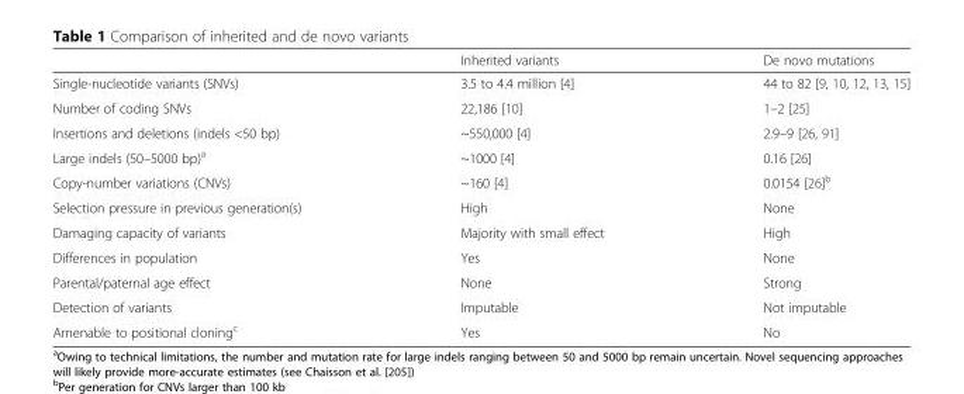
<table><thead><tr><td></td><td>Inherited variants</td><td>De novo mutations</td></tr></thead><tbody><tr><td>Single-nucleotide variants (SNVs)</td><td>3.5 to 4.4 million [4]</td><td>44 to 82 [9, 10, 12, 13, 15]</td></tr><tr><td>Number of coding SNVs</td><td>22,186 [10]</td><td>1–2 [25]</td></tr><tr><td>Insertions and deletions (indels &lt;50 bp)</td><td>~550,000 [4]</td><td>2.9–9 [26, 91]</td></tr><tr><td>Large indels (50–5000 bp)<sup>a</sup></td><td>~1000 [4]</td><td>0.16 [26]</td></tr><tr><td>Copy-number variations (CNVs)</td><td>~160 [4]</td><td>0.0154 [26]<sup>b</sup></td></tr><tr><td>Selection pressure in previous generation(s)</td><td>High</td><td>None</td></tr><tr><td>Damaging capacity of variants</td><td>Majority with small effect</td><td>High</td></tr><tr><td>Differences in population</td><td>Yes</td><td>None</td></tr><tr><td>Parental/paternal age effect</td><td>None</td><td>Strong</td></tr><tr><td>Detection of variants</td><td>Imputable</td><td>Not imputable</td></tr><tr><td>Amenable to positional cloning<sup>c</sup></td><td>Yes</td><td>No</td></tr></tbody></table>